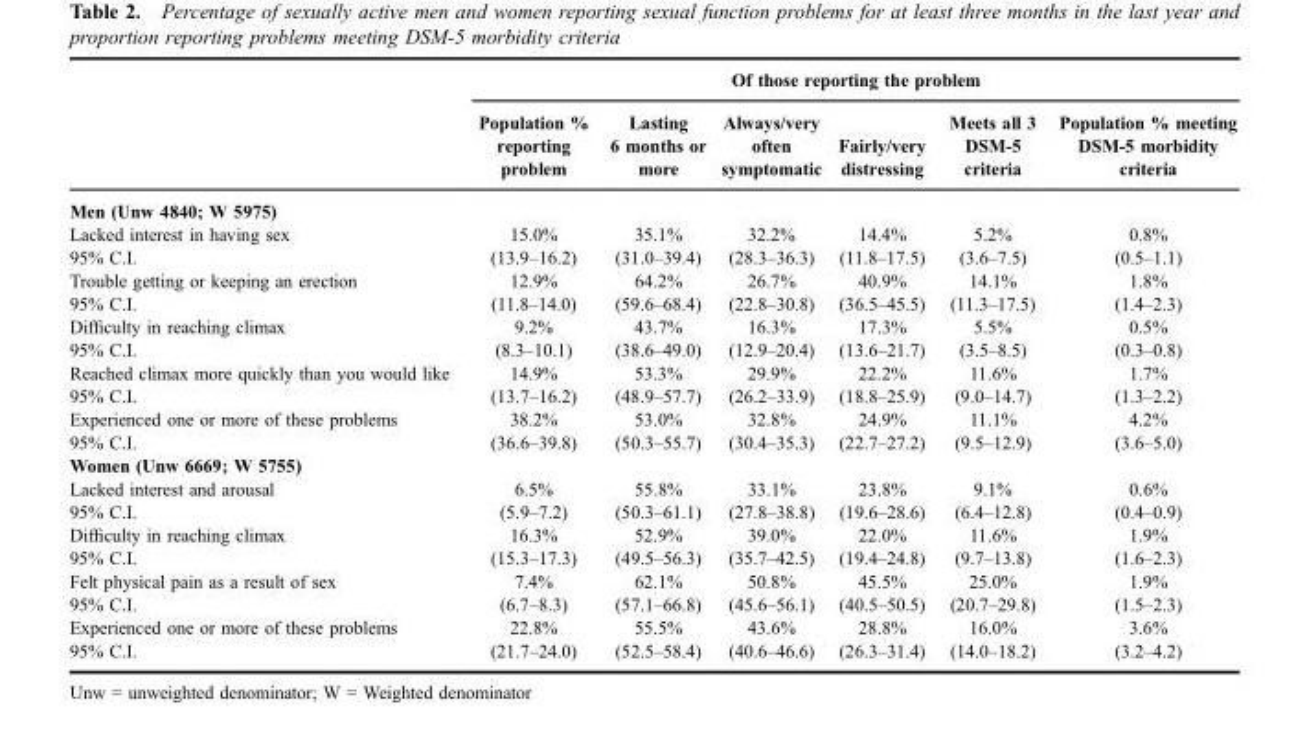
<table><thead><tr><td rowspan="2"></td><td colspan="6">Of those reporting the problem</td></tr><tr><td>Population % reporting problem</td><td>Lasting 6 months or more</td><td>Always/very often symptomatic</td><td>Fairly/very distressing</td><td>Meets all 3 DSM-5 criteria</td><td>Population % meeting DSM-5 morbidity criteria</td></tr></thead><tbody><tr><td colspan="7">Men (Unw 4840; W 5975)</td></tr><tr><td>Lacked interest in having sex</td><td>15.0%</td><td>35.1%</td><td>32.2%</td><td>14.4%</td><td>5.2%</td><td>0.8%</td></tr><tr><td>95% C.I.</td><td>(13.9–16.2)</td><td>(31.0–39.4)</td><td>(28.3–36.3)</td><td>(11.8–17.5)</td><td>(3.6–7.5)</td><td>(0.5–1.1)</td></tr><tr><td>Trouble getting or keeping an erection</td><td>12.9%</td><td>64.2%</td><td>26.7%</td><td>40.9%</td><td>14.1%</td><td>1.8%</td></tr><tr><td>95% C.I.</td><td>(11.8–14.0)</td><td>(59.6–68.4)</td><td>(22.8–30.8)</td><td>(36.5–45.5)</td><td>(11.3–17.5)</td><td>(1.4–2.3)</td></tr><tr><td>Difficulty in reaching climax</td><td>9.2%</td><td>43.7%</td><td>16.3%</td><td>17.3%</td><td>5.5%</td><td>0.5%</td></tr><tr><td>95% C.I.</td><td>(8.3–10.1)</td><td>(38.6–49.0)</td><td>(12.9–20.4)</td><td>(13.6–21.7)</td><td>(3.5–8.5)</td><td>(0.3–0.8)</td></tr><tr><td>Reached climax more quickly than you would like</td><td>14.9%</td><td>53.3%</td><td>29.9%</td><td>22.2%</td><td>11.6%</td><td>1.7%</td></tr><tr><td>95% C.I.</td><td>(13.7–16.2)</td><td>(48.9–57.7)</td><td>(26.2–33.9)</td><td>(18.8–25.9)</td><td>(9.0–14.7)</td><td>(1.3–2.2)</td></tr><tr><td>Experienced one or more of these problems</td><td>38.2%</td><td>53.0%</td><td>32.8%</td><td>24.9%</td><td>11.1%</td><td>4.2%</td></tr><tr><td>95% C.I.</td><td>(36.6–39.8)</td><td>(50.3–55.7)</td><td>(30.4–35.3)</td><td>(22.7–27.2)</td><td>(9.5–12.9)</td><td>(3.6–5.0)</td></tr><tr><td colspan="7">Women (Unw 6669; W 5755)</td></tr><tr><td>Lacked interest and arousal</td><td>6.5%</td><td>55.8%</td><td>33.1%</td><td>23.8%</td><td>9.1%</td><td>0.6%</td></tr><tr><td>95% C.I.</td><td>(5.9–7.2)</td><td>(50.3–61.1)</td><td>(27.8–38.8)</td><td>(19.6–28.6)</td><td>(6.4–12.8)</td><td>(0.4–0.9)</td></tr><tr><td>Difficulty in reaching climax</td><td>16.3%</td><td>52.9%</td><td>39.0%</td><td>22.0%</td><td>11.6%</td><td>1.9%</td></tr><tr><td>95% C.I.</td><td>(15.3–17.3)</td><td>(49.5–56.3)</td><td>(35.7–42.5)</td><td>(19.4–24.8)</td><td>(9.7–13.8)</td><td>(1.6–2.3)</td></tr><tr><td>Felt physical pain as a result of sex</td><td>7.4%</td><td>62.1%</td><td>50.8%</td><td>45.5%</td><td>25.0%</td><td>1.9%</td></tr><tr><td>95% C.I.</td><td>(6.7–8.3)</td><td>(57.1–66.8)</td><td>(45.6–56.1)</td><td>(40.5–50.5)</td><td>(20.7–29.8)</td><td>(1.5–2.3)</td></tr><tr><td>Experienced one or more of these problems</td><td>22.8%</td><td>55.5%</td><td>43.6%</td><td>28.8%</td><td>16.0%</td><td>3.6%</td></tr><tr><td>95% C.I.</td><td>(21.7–24.0)</td><td>(52.5–58.4)</td><td>(40.6–46.6)</td><td>(26.3–31.4)</td><td>(14.0–18.2)</td><td>(3.2–4.2)</td></tr></tbody></table>